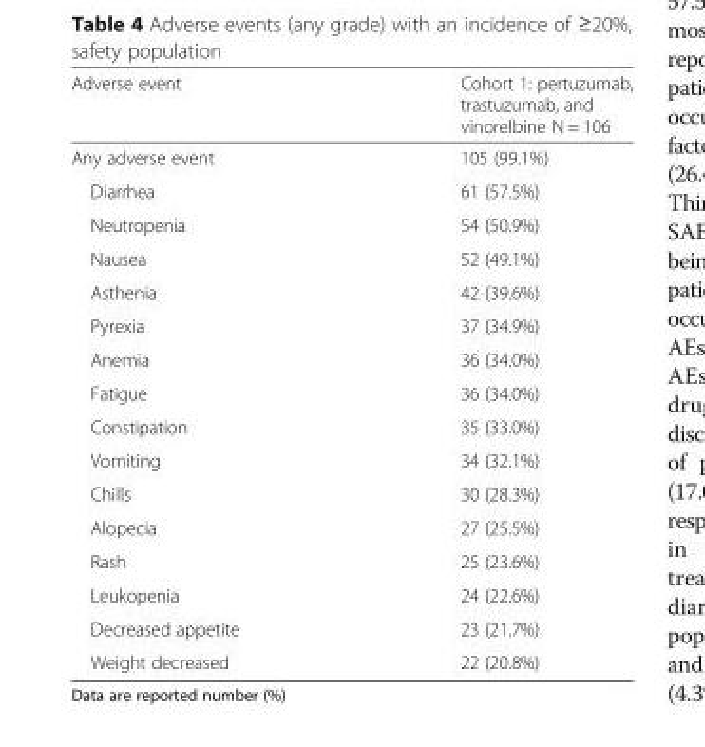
<table><thead><tr><td>Adverse event</td><td>Cohort 1: pertuzumab, trastuzumab, and vinorelbine N = 106</td></tr></thead><tbody><tr><td>Any adverse event</td><td>105 (99.1%)</td></tr><tr><td>Diarrhea</td><td>61 (57.5%)</td></tr><tr><td>Neutropenia</td><td>54 (50.9%)</td></tr><tr><td>Nausea</td><td>52 (49.1%)</td></tr><tr><td>Asthenia</td><td>42 (39.6%)</td></tr><tr><td>Pyrexia</td><td>37 (34.9%)</td></tr><tr><td>Anemia</td><td>36 (34.0%)</td></tr><tr><td>Fatigue</td><td>36 (34.0%)</td></tr><tr><td>Constipation</td><td>35 (33.0%)</td></tr><tr><td>Vomiting</td><td>34 (32.1%)</td></tr><tr><td>Chills</td><td>30 (28.3%)</td></tr><tr><td>Alopecia</td><td>27 (25.5%)</td></tr><tr><td>Rash</td><td>25 (23.6%)</td></tr><tr><td>Leukopenia</td><td>24 (22.6%)</td></tr><tr><td>Decreased appetite</td><td>23 (21.7%)</td></tr><tr><td>Weight decreased</td><td>22 (20.8%)</td></tr></tbody></table>